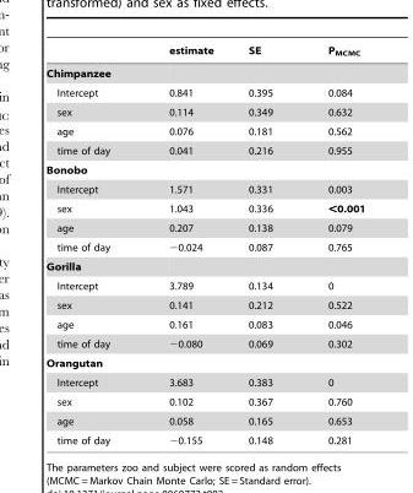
<table><thead><tr><td></td><td>estimate</td><td>SE</td><td>P<sub>MCMC</sub></td></tr></thead><tbody><tr><td colspan="4">Chimpanzee</td></tr><tr><td>Intercept</td><td>0.841</td><td>0.395</td><td>0.084</td></tr><tr><td>sex</td><td>0.114</td><td>0.349</td><td>0.632</td></tr><tr><td>age</td><td>0.076</td><td>0.181</td><td>0.562</td></tr><tr><td>time of day</td><td>0.041</td><td>0.216</td><td>0.955</td></tr><tr><td colspan="4">Bonobo</td></tr><tr><td>Intercept</td><td>1.571</td><td>0.331</td><td>0.003</td></tr><tr><td>sex</td><td>1.043</td><td>0.336</td><td>&lt;0.001</td></tr><tr><td>age</td><td>0.207</td><td>0.138</td><td>0.079</td></tr><tr><td>time of day</td><td>−0.024</td><td>0.087</td><td>0.765</td></tr><tr><td colspan="4">Gorilla</td></tr><tr><td>Intercept</td><td>3.789</td><td>0.134</td><td>0</td></tr><tr><td>sex</td><td>0.141</td><td>0.212</td><td>0.522</td></tr><tr><td>age</td><td>0.161</td><td>0.083</td><td>0.046</td></tr><tr><td>time of day</td><td>−0.080</td><td>0.069</td><td>0.302</td></tr><tr><td colspan="4">Orangutan</td></tr><tr><td>Intercept</td><td>3.683</td><td>0.383</td><td>0</td></tr><tr><td>sex</td><td>0.102</td><td>0.367</td><td>0.760</td></tr><tr><td>age</td><td>0.058</td><td>0.165</td><td>0.653</td></tr><tr><td>time of day</td><td>−0.155</td><td>0.148</td><td>0.281</td></tr></tbody></table>